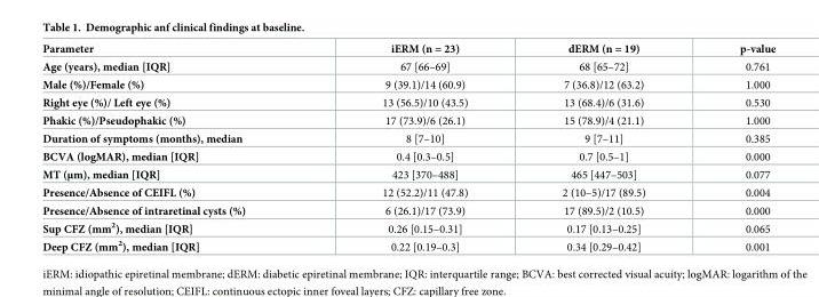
<table><thead><tr><td>Parameter</td><td>iERM (n = 23)</td><td>dERM (n = 19)</td><td>p-value</td></tr></thead><tbody><tr><td>Age (years), median [IQR]</td><td>67 [66–69]</td><td>68 [65–72]</td><td>0.761</td></tr><tr><td>Male (%)/Female (%)</td><td>9 (39.1)/14 (60.9)</td><td>7 (36.8)/12 (63.2)</td><td>1.000</td></tr><tr><td>Right eye (%)/ Left eye (%)</td><td>13 (56.5)/10 (43.5)</td><td>13 (68.4)/6 (31.6)</td><td>0.530</td></tr><tr><td>Phakic (%)/Pseudophakic (%)</td><td>17 (73.9)/6 (26.1)</td><td>15 (78.9)/4 (21.1)</td><td>1.000</td></tr><tr><td>Duration of symptoms (months), median</td><td>8 [7–10]</td><td>9 [7–11]</td><td>0.385</td></tr><tr><td>BCVA (logMAR), median [IQR]</td><td>0.4 [0.3–0.5]</td><td>0.7 [0.5–1]</td><td>0.000</td></tr><tr><td>MT (μm), median [IQR]</td><td>423 [370–488]</td><td>465 [447–503]</td><td>0.077</td></tr><tr><td>Presence/Absence of CEIFL (%)</td><td>12 (52.2)/11 (47.8)</td><td>2 (10–5)/17 (89.5)</td><td>0.004</td></tr><tr><td>Presence/Absence of intraretinal cysts (%)</td><td>6 (26.1)/17 (73.9)</td><td>17 (89.5)/2 (10.5)</td><td>0.000</td></tr><tr><td>Sup CFZ (mm<sup>2</sup>), median [IQR]</td><td>0.26 [0.15–0.31]</td><td>0.17 [0.13–0.25]</td><td>0.065</td></tr><tr><td>Deep CFZ (mm<sup>2</sup>), median [IQR]</td><td>0.22 [0.19–0.3]</td><td>0.34 [0.29–0.42]</td><td>0.001</td></tr></tbody></table>